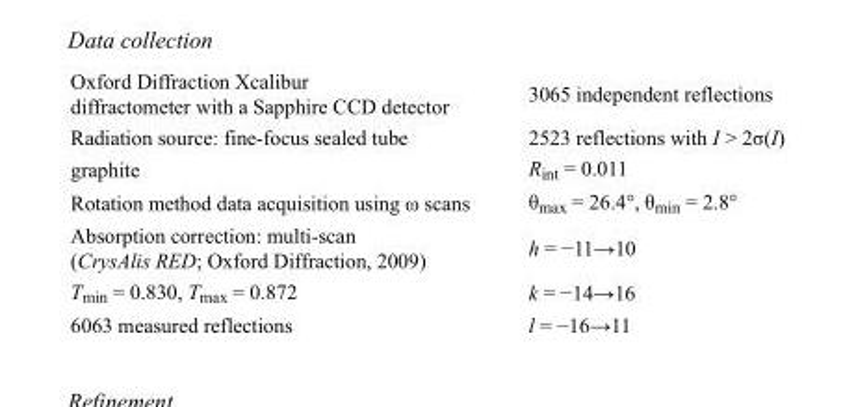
<table><tbody><tr><td>Oxford Diffraction Xcalibur diffractometer with a Sapphire CCD detector</td><td>3065 independent reflections</td></tr><tr><td>Radiation source: fine-focus sealed tube</td><td>2523 reflections with I &gt; 2σ(I)</td></tr><tr><td>graphite</td><td>R<sub>int</sub> = 0.011</td></tr><tr><td>Rotation method data acquisition using ω scans</td><td>θ<sub>max</sub> = 26.4°, θ<sub>min</sub> = 2.8°</td></tr><tr><td>Absorption correction: multi-scan (CrysAlis RED; Oxford Diffraction, 2009)</td><td>h = −11→10</td></tr><tr><td>T<sub>min</sub> = 0.830, T<sub>max</sub> = 0.872</td><td>k = −14→16</td></tr><tr><td>6063 measured reflections</td><td>l = −16→11</td></tr></tbody></table>